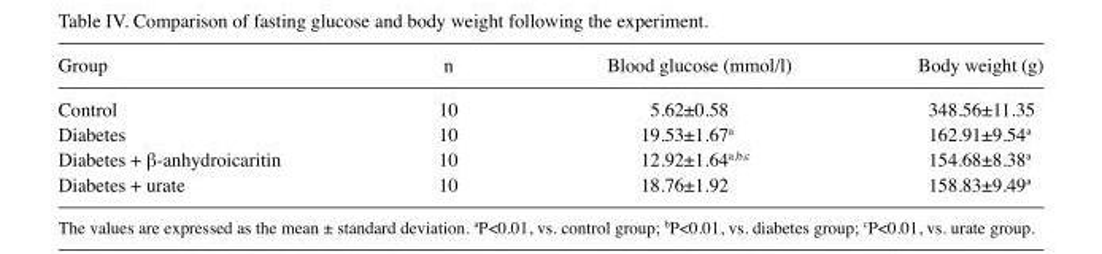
<table><thead><tr><td>Group</td><td>n</td><td>Blood glucose (mmol/l)</td><td>Body weight (g)</td></tr></thead><tbody><tr><td>Control</td><td>10</td><td>5.62±0.58</td><td>348.56±11.35</td></tr><tr><td>Diabetes</td><td>10</td><td>19.53±1.67<sup>a</sup></td><td>162.91±9.54<sup>a</sup></td></tr><tr><td>Diabetes + β-anhydroicaritin</td><td>10</td><td>12.92±1.64<sup>a</sup>,<sup>b</sup>,<sup>c</sup></td><td>154.68±8.38<sup>a</sup></td></tr><tr><td>Diabetes + urate</td><td>10</td><td>18.76±1.92</td><td>158.83±9.49<sup>a</sup></td></tr></tbody></table>